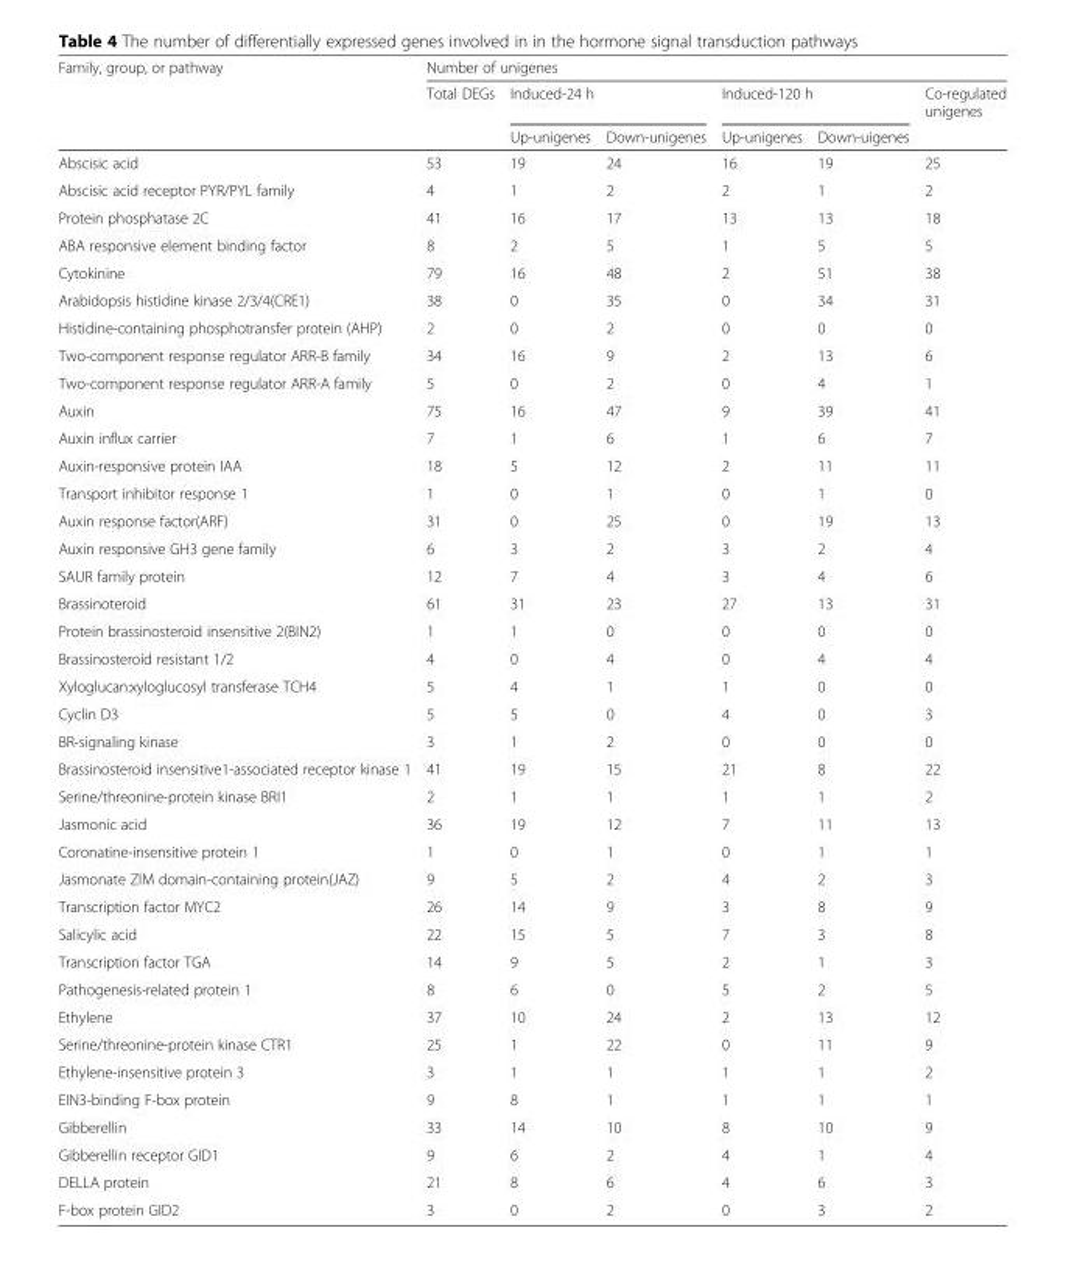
<table><thead><tr><td rowspan="3">Family, group, or pathway</td><td colspan="6">Number of unigenes</td></tr><tr><td rowspan="2">Total DEGs</td><td colspan="2">Induced-24 h</td><td colspan="2">Induced-120 h</td><td rowspan="2">Co-regulated unigenes</td></tr><tr><td>Up-unigenes</td><td>Down-unigenes</td><td>Up-unigenes</td><td>Down-uigenes</td></tr></thead><tbody><tr><td>Abscisic acid</td><td>53</td><td>19</td><td>24</td><td>16</td><td>19</td><td>25</td></tr><tr><td>Abscisic acid receptor PYR/PYL family</td><td>4</td><td>1</td><td>2</td><td>2</td><td>1</td><td>2</td></tr><tr><td>Protein phosphatase 2C</td><td>41</td><td>16</td><td>17</td><td>13</td><td>13</td><td>18</td></tr><tr><td>ABA responsive element binding factor</td><td>8</td><td>2</td><td>5</td><td>1</td><td>5</td><td>5</td></tr><tr><td>Cytokinine</td><td>79</td><td>16</td><td>48</td><td>2</td><td>51</td><td>38</td></tr><tr><td>Arabidopsis histidine kinase 2/3/4(CRE1)</td><td>38</td><td>0</td><td>35</td><td>0</td><td>34</td><td>31</td></tr><tr><td>Histidine-containing phosphotransfer protein (AHP)</td><td>2</td><td>0</td><td>2</td><td>0</td><td>0</td><td>0</td></tr><tr><td>Two-component response regulator ARR-B family</td><td>34</td><td>16</td><td>9</td><td>2</td><td>13</td><td>6</td></tr><tr><td>Two-component response regulator ARR-A family</td><td>5</td><td>0</td><td>2</td><td>0</td><td>4</td><td>1</td></tr><tr><td>Auxin</td><td>75</td><td>16</td><td>47</td><td>9</td><td>39</td><td>41</td></tr><tr><td>Auxin influx carrier</td><td>7</td><td>1</td><td>6</td><td>1</td><td>6</td><td>7</td></tr><tr><td>Auxin-responsive protein IAA</td><td>18</td><td>5</td><td>12</td><td>2</td><td>11</td><td>11</td></tr><tr><td>Transport inhibitor response 1</td><td>1</td><td>0</td><td>1</td><td>0</td><td>1</td><td>0</td></tr><tr><td>Auxin response factor(ARF)</td><td>31</td><td>0</td><td>25</td><td>0</td><td>19</td><td>13</td></tr><tr><td>Auxin responsive GH3 gene family</td><td>6</td><td>3</td><td>2</td><td>3</td><td>2</td><td>4</td></tr><tr><td>SAUR family protein</td><td>12</td><td>7</td><td>4</td><td>3</td><td>4</td><td>6</td></tr><tr><td>Brassinoteroid</td><td>61</td><td>31</td><td>23</td><td>27</td><td>13</td><td>31</td></tr><tr><td>Protein brassinosteroid insensitive 2(BIN2)</td><td>1</td><td>1</td><td>0</td><td>0</td><td>0</td><td>0</td></tr><tr><td>Brassinosteroid resistant 1/2</td><td>4</td><td>0</td><td>4</td><td>0</td><td>4</td><td>4</td></tr><tr><td>Xyloglucan:xyloglucosyl transferase TCH4</td><td>5</td><td>4</td><td>1</td><td>1</td><td>0</td><td>0</td></tr><tr><td>Cyclin D3</td><td>5</td><td>5</td><td>0</td><td>4</td><td>0</td><td>3</td></tr><tr><td>BR-signaling kinase</td><td>3</td><td>1</td><td>2</td><td>0</td><td>0</td><td>0</td></tr><tr><td>Brassinosteroid insensitive1-associated receptor kinase 1</td><td>41</td><td>19</td><td>15</td><td>21</td><td>8</td><td>22</td></tr><tr><td>Serine/threonine-protein kinase BRI1</td><td>2</td><td>1</td><td>1</td><td>1</td><td>1</td><td>2</td></tr><tr><td>Jasmonic acid</td><td>36</td><td>19</td><td>12</td><td>7</td><td>11</td><td>13</td></tr><tr><td>Coronatine-insensitive protein 1</td><td>1</td><td>0</td><td>1</td><td>0</td><td>1</td><td>1</td></tr><tr><td>Jasmonate ZIM domain-containing protein(JAZ)</td><td>9</td><td>5</td><td>2</td><td>4</td><td>2</td><td>3</td></tr><tr><td>Transcription factor MYC2</td><td>26</td><td>14</td><td>9</td><td>3</td><td>8</td><td>9</td></tr><tr><td>Salicylic acid</td><td>22</td><td>15</td><td>5</td><td>7</td><td>3</td><td>8</td></tr><tr><td>Transcription factor TGA</td><td>14</td><td>9</td><td>5</td><td>2</td><td>1</td><td>3</td></tr><tr><td>Pathogenesis-related protein 1</td><td>8</td><td>6</td><td>0</td><td>5</td><td>2</td><td>5</td></tr><tr><td>Ethylene</td><td>37</td><td>10</td><td>24</td><td>2</td><td>13</td><td>12</td></tr><tr><td>Serine/threonine-protein kinase CTR1</td><td>25</td><td>1</td><td>22</td><td>0</td><td>11</td><td>9</td></tr><tr><td>Ethylene-insensitive protein 3</td><td>3</td><td>1</td><td>1</td><td>1</td><td>1</td><td>2</td></tr><tr><td>EIN3-binding F-box protein</td><td>9</td><td>8</td><td>1</td><td>1</td><td>1</td><td>1</td></tr><tr><td>Gibberellin</td><td>33</td><td>14</td><td>10</td><td>8</td><td>10</td><td>9</td></tr><tr><td>Gibberellin receptor GID1</td><td>9</td><td>6</td><td>2</td><td>4</td><td>1</td><td>4</td></tr><tr><td>DELLA protein</td><td>21</td><td>8</td><td>6</td><td>4</td><td>6</td><td>3</td></tr><tr><td>F-box protein GID2</td><td>3</td><td>0</td><td>2</td><td>0</td><td>3</td><td>2</td></tr></tbody></table>